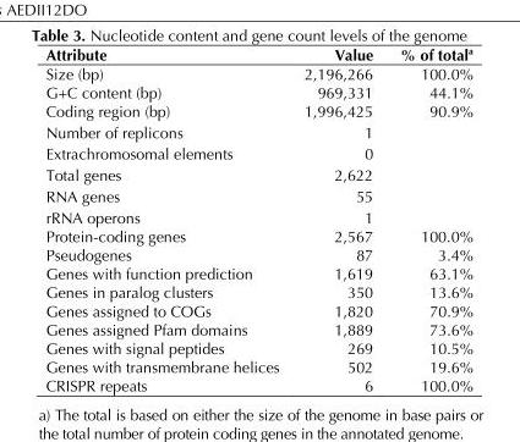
<table><thead><tr><td>Attribute</td><td>Value</td><td>% of total<sup>a</sup></td></tr></thead><tbody><tr><td>Size (bp)</td><td>2,196,266</td><td>100.0%</td></tr><tr><td>G+C content (bp)</td><td>969,331</td><td>44.1%</td></tr><tr><td>Coding region (bp)</td><td>1,996,425</td><td>90.9%</td></tr><tr><td>Number of replicons</td><td>1</td><td></td></tr><tr><td>Extrachromosomal elements</td><td>0</td><td></td></tr><tr><td>Total genes</td><td>2,622</td><td></td></tr><tr><td>RNA genes</td><td>55</td><td></td></tr><tr><td>rRNA operons</td><td>1</td><td></td></tr><tr><td>Protein-coding genes</td><td>2,567</td><td>100.0%</td></tr><tr><td>Pseudogenes</td><td>87</td><td>3.4%</td></tr><tr><td>Genes with function prediction</td><td>1,619</td><td>63.1%</td></tr><tr><td>Genes in paralog clusters</td><td>350</td><td>13.6%</td></tr><tr><td>Genes assigned to COGs</td><td>1,820</td><td>70.9%</td></tr><tr><td>Genes assigned Pfam domains</td><td>1,889</td><td>73.6%</td></tr><tr><td>Genes with signal peptides</td><td>269</td><td>10.5%</td></tr><tr><td>Genes with transmembrane helices</td><td>502</td><td>19.6%</td></tr><tr><td>CRISPR repeats</td><td>6</td><td>100.0%</td></tr></tbody></table>